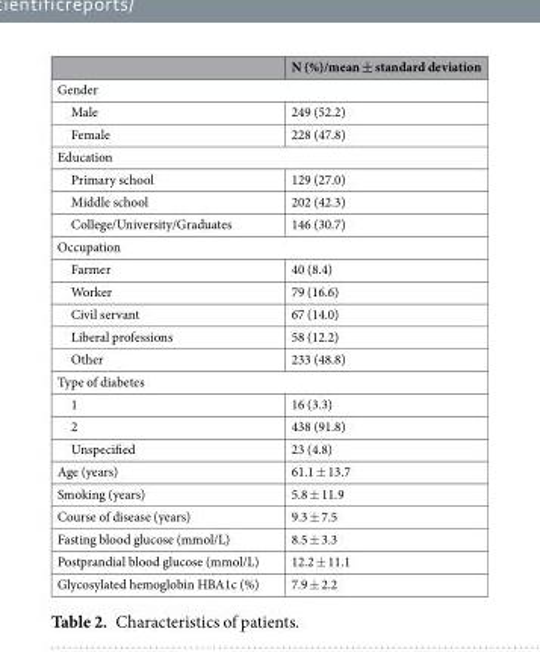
<table><thead><tr><td></td><td>N (%)/mean ± standard deviation</td></tr></thead><tbody><tr><td colspan="2">Gender</td></tr><tr><td>Male</td><td>249 (52.2)</td></tr><tr><td>Female</td><td>228 (47.8)</td></tr><tr><td colspan="2">Education</td></tr><tr><td>Primary school</td><td>129 (27.0)</td></tr><tr><td>Middle school</td><td>202 (42.3)</td></tr><tr><td>College/University/Graduates</td><td>146 (30.7)</td></tr><tr><td colspan="2">Occupation</td></tr><tr><td>Farmer</td><td>40 (8.4)</td></tr><tr><td>Worker</td><td>79 (16.6)</td></tr><tr><td>Civil servant</td><td>67 (14.0)</td></tr><tr><td>Liberal professions</td><td>58 (12.2)</td></tr><tr><td>Other</td><td>233 (48.8)</td></tr><tr><td colspan="2">Type of diabetes</td></tr><tr><td>1</td><td>16 (3.3)</td></tr><tr><td>2</td><td>438 (91.8)</td></tr><tr><td>Unspecified</td><td>23 (4.8)</td></tr><tr><td>Age (years)</td><td>61.1 ± 13.7</td></tr><tr><td>Smoking (years)</td><td>5.8 ± 11.9</td></tr><tr><td>Course of disease (years)</td><td>9.3 ± 7.5</td></tr><tr><td>Fasting blood glucose (mmol/L)</td><td>8.5 ± 3.3</td></tr><tr><td>Postprandial blood glucose (mmol/L)</td><td>12.2 ± 11.1</td></tr><tr><td>Glycosylated hemoglobin HBA1c (%)</td><td>7.9 ± 2.2</td></tr></tbody></table>